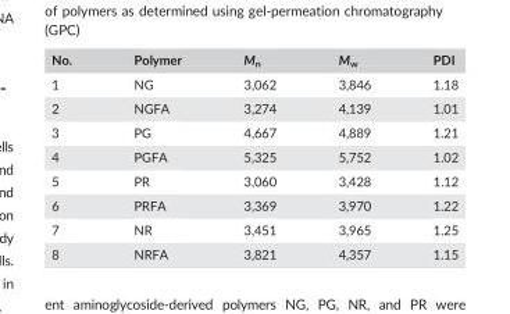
<table><thead><tr><td>No.</td><td>Polymer</td><td>M<sub>n</sub></td><td>M<sub>w</sub></td><td>PDI</td></tr></thead><tbody><tr><td>1</td><td>NG</td><td>3,062</td><td>3,846</td><td>1.18</td></tr><tr><td>2</td><td>NGFA</td><td>3,274</td><td>4,139</td><td>1.01</td></tr><tr><td>3</td><td>PG</td><td>4,667</td><td>4,889</td><td>1.21</td></tr><tr><td>4</td><td>PGFA</td><td>5,325</td><td>5,752</td><td>1.02</td></tr><tr><td>5</td><td>PR</td><td>3,060</td><td>3,428</td><td>1.12</td></tr><tr><td>6</td><td>PRFA</td><td>3,369</td><td>3,970</td><td>1.22</td></tr><tr><td>7</td><td>NR</td><td>3,451</td><td>3,965</td><td>1.25</td></tr><tr><td>8</td><td>NRFA</td><td>3,821</td><td>4,357</td><td>1.15</td></tr></tbody></table>